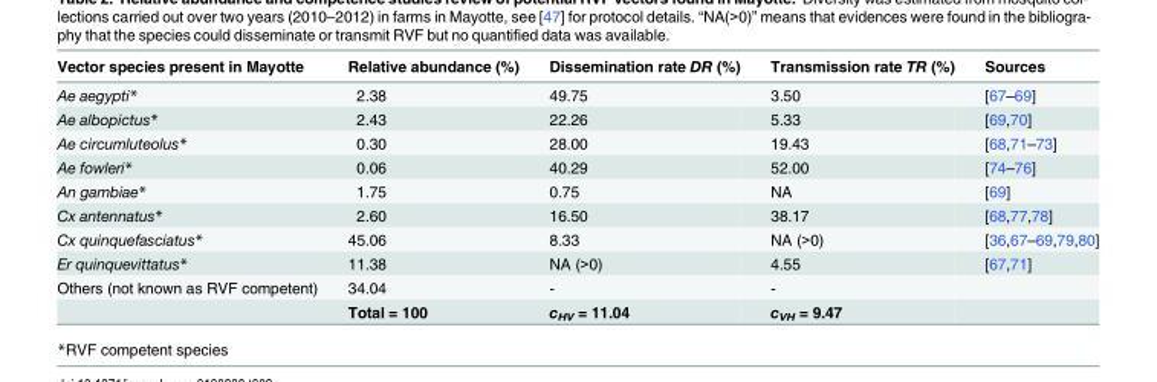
<table><thead><tr><td>Vector species present in Mayotte</td><td>Relative abundance (%)</td><td>Dissemination rate DR (%)</td><td>Transmission rate TR (%)</td><td>Sources</td></tr></thead><tbody><tr><td>Ae aegypti*</td><td>2.38</td><td>49.75</td><td>3.50</td><td>[67–69]</td></tr><tr><td>Ae albopictus*</td><td>2.43</td><td>22.26</td><td>5.33</td><td>[69,70]</td></tr><tr><td>Ae circumluteolus*</td><td>0.30</td><td>28.00</td><td>19.43</td><td>[68,71–73]</td></tr><tr><td>Ae fowleri*</td><td>0.06</td><td>40.29</td><td>52.00</td><td>[74–76]</td></tr><tr><td>An gambiae*</td><td>1.75</td><td>0.75</td><td>NA</td><td>[69]</td></tr><tr><td>Cx antennatus*</td><td>2.60</td><td>16.50</td><td>38.17</td><td>[68,77,78]</td></tr><tr><td>Cx quinquefasciatus*</td><td>45.06</td><td>8.33</td><td>NA (&gt;0)</td><td>[36,67–69,79,80]</td></tr><tr><td>Er quinquevittatus*</td><td>11.38</td><td>NA (&gt;0)</td><td>4.55</td><td>[67,71]</td></tr><tr><td rowspan="2">Others (not known as RVF competent)</td><td>34.04</td><td>-</td><td>-</td><td></td></tr><tr><td>Total = 100</td><td>c<sub>HV</sub> = 11.04</td><td>c<sub>VH</sub> = 9.47</td><td></td></tr></tbody></table>